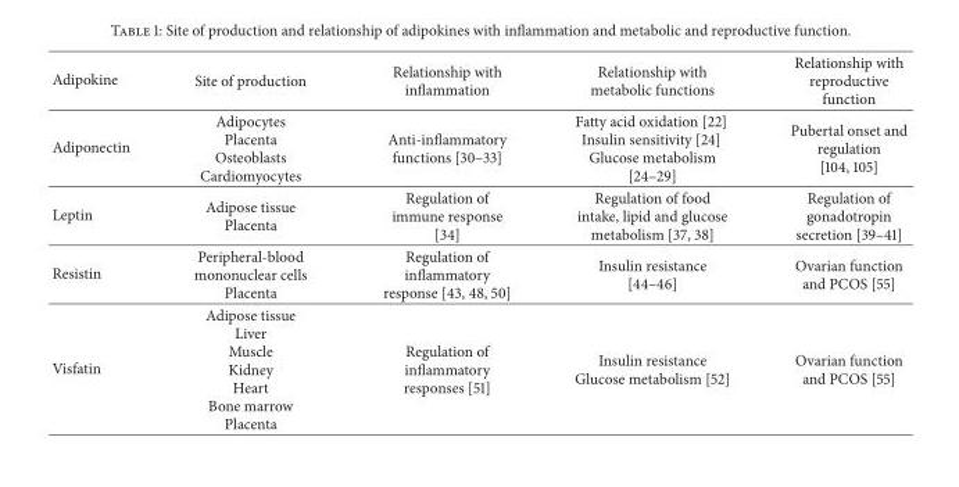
<table><thead><tr><td>Adipokine</td><td>Site of production</td><td>Relationship with inflammation</td><td>Relationship with metabolic functions</td><td>Relationship with reproductive function</td></tr></thead><tbody><tr><td>Adiponectin</td><td>Adipocytes Placenta Osteoblasts Cardiomyocytes</td><td>Anti-inflammatory functions [30–33]</td><td>Fatty acid oxidation [22] Insulin sensitivity [24] Glucose metabolism [24–29]</td><td>Pubertal onset and regulation [104, 105]</td></tr><tr><td>Leptin</td><td>Adipose tissue Placenta</td><td>Regulation of immune response [34]</td><td>Regulation of food intake, lipid and glucose metabolism [37, 38]</td><td>Regulation of gonadotropin secretion [39–41]</td></tr><tr><td>Resistin</td><td>Peripheral-blood mononuclear cells Placenta</td><td>Regulation of inflammatory response [43, 48, 50]</td><td>Insulin resistance [44–46]</td><td>Ovarian function and PCOS [55]</td></tr><tr><td>Visfatin</td><td>Adipose tissue Liver Muscle Kidney Heart Bone marrow Placenta</td><td>Regulation of inflammatory responses [51]</td><td>Insulin resistance Glucose metabolism [52]</td><td>Ovarian function and PCOS [55]</td></tr></tbody></table>